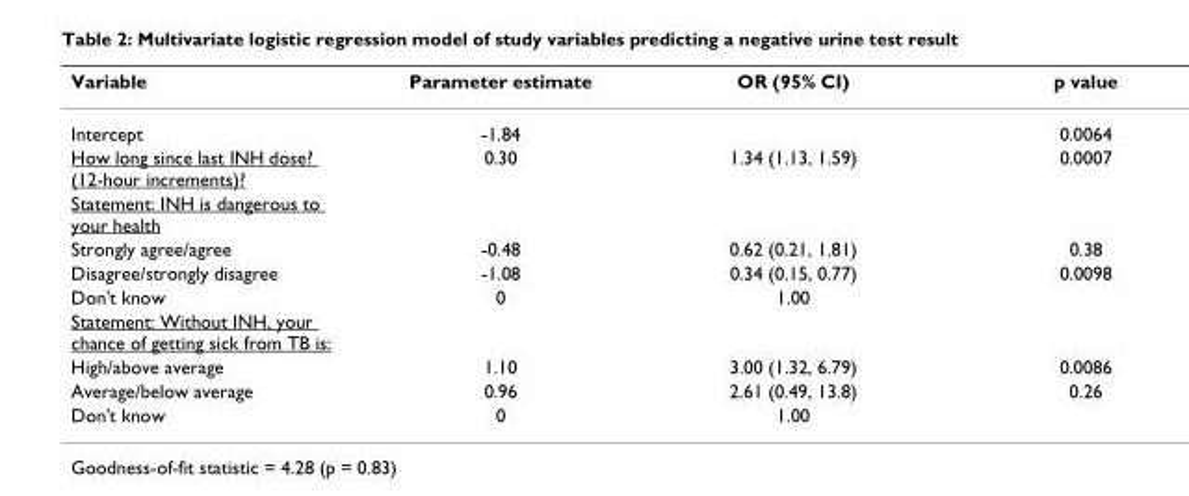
<table><thead><tr><td>Variable</td><td>Parameter estimate</td><td>OR (95% CI)</td><td>p value</td></tr></thead><tbody><tr><td>Intercept</td><td>-1.84</td><td></td><td>0.0064</td></tr><tr><td>How long since last INH dose? (12-hour increments)?</td><td>0.30</td><td>1.34 (1.13, 1.59)</td><td>0.0007</td></tr><tr><td colspan="4">Statement: INH is dangerous to your health</td></tr><tr><td>Strongly agree/agree</td><td>-0.48</td><td>0.62 (0.21, 1.81)</td><td>0.38</td></tr><tr><td>Disagree/strongly disagree</td><td>-1.08</td><td>0.34 (0.15, 0.77)</td><td>0.0098</td></tr><tr><td>Don&#x27;t know</td><td>0</td><td>1.00</td><td></td></tr><tr><td colspan="4">Statement: Without INH, your chance of getting sick from TB is:</td></tr><tr><td>High/above average</td><td>1.10</td><td>3.00 (1.32, 6.79)</td><td>0.0086</td></tr><tr><td>Average/below average</td><td>0.96</td><td>2.61 (0.49, 13.8)</td><td>0.26</td></tr><tr><td>Don&#x27;t know</td><td>0</td><td>1.00</td><td></td></tr></tbody></table>